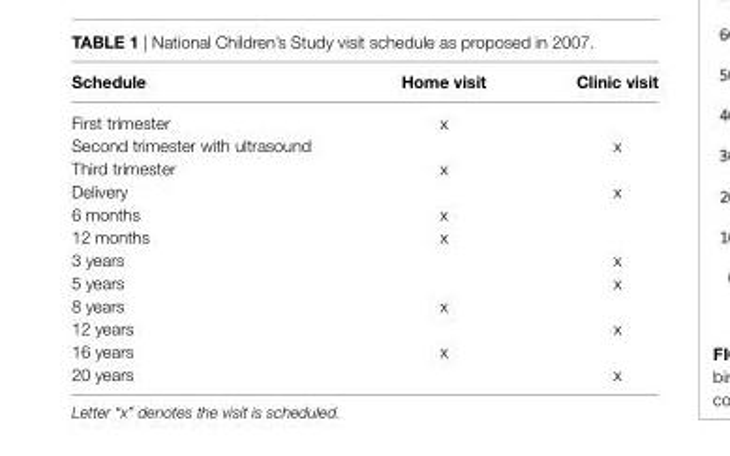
<table><thead><tr><td>Schedule</td><td>Home visit</td><td>Clinic visit</td></tr></thead><tbody><tr><td>First trimester</td><td>x</td><td></td></tr><tr><td>Second trimester with ultrasound</td><td></td><td>x</td></tr><tr><td>Third trimester</td><td>x</td><td></td></tr><tr><td>Delivery</td><td></td><td>x</td></tr><tr><td>6 months</td><td>x</td><td></td></tr><tr><td>12 months</td><td>x</td><td></td></tr><tr><td>3 years</td><td></td><td>x</td></tr><tr><td>5 years</td><td></td><td>x</td></tr><tr><td>8 years</td><td>x</td><td></td></tr><tr><td>12 years</td><td></td><td>x</td></tr><tr><td>16 years</td><td>x</td><td></td></tr><tr><td>20 years</td><td></td><td>x</td></tr></tbody></table>